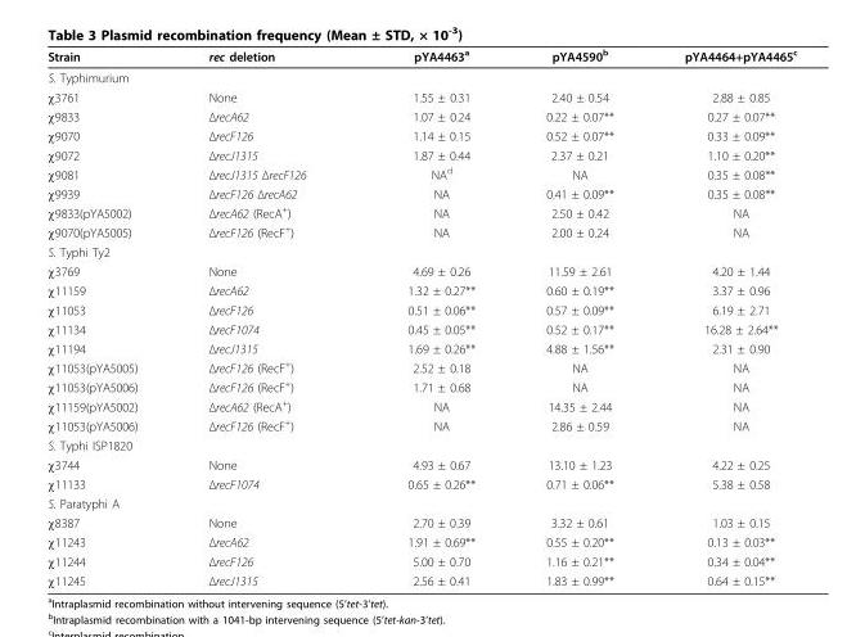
<table><thead><tr><td>Strain</td><td>rec deletion</td><td>pYA4463<sup>a</sup></td><td>pYA4590<sup>b</sup></td><td>pYA4464+pYA4465<sup>c</sup></td></tr></thead><tbody><tr><td colspan="5">S. Typhimurium</td></tr><tr><td>χ3761</td><td>None</td><td>1.55 ± 0.31</td><td>2.40 ± 0.54</td><td>2.88 ± 0.85</td></tr><tr><td>χ9833</td><td>ΔrecA62</td><td>1.07 ± 0.24</td><td>0.22 ± 0.07**</td><td>0.27 ± 0.07**</td></tr><tr><td>χ9070</td><td>ΔrecF126</td><td>1.14 ± 0.15</td><td>0.52 ± 0.07**</td><td>0.33 ± 0.09**</td></tr><tr><td>χ9072</td><td>ΔrecJ1315</td><td>1.87 ± 0.44</td><td>2.37 ± 0.21</td><td>1.10 ± 0.20**</td></tr><tr><td>χ9081</td><td>ΔrecJ1315 ΔrecF126</td><td>NA<sup>d</sup></td><td>NA</td><td>0.35 ± 0.08**</td></tr><tr><td>χ9939</td><td>ΔrecF126 ΔrecA62</td><td>NA</td><td>0.41 ± 0.09**</td><td>0.35 ± 0.08**</td></tr><tr><td>χ9833(pYA5002)</td><td>ΔrecA62 (RecA<sup>+</sup>)</td><td>NA</td><td>2.50 ± 0.42</td><td>NA</td></tr><tr><td>χ9070(pYA5005)</td><td>ΔrecF126 (RecF<sup>+</sup>)</td><td>NA</td><td>2.00 ± 0.24</td><td>NA</td></tr><tr><td colspan="5">S. Typhi Ty2</td></tr><tr><td>χ3769</td><td>None</td><td>4.69 ± 0.26</td><td>11.59 ± 2.61</td><td>4.20 ± 1.44</td></tr><tr><td>χ11159</td><td>ΔrecA62</td><td>1.32 ± 0.27**</td><td>0.60 ± 0.19**</td><td>3.37 ± 0.96</td></tr><tr><td>χ11053</td><td>ΔrecF126</td><td>0.51 ± 0.06**</td><td>0.57 ± 0.09**</td><td>6.19 ± 2.71</td></tr><tr><td>χ11134</td><td>ΔrecF1074</td><td>0.45 ± 0.05**</td><td>0.52 ± 0.17**</td><td>16.28 ± 2.64**</td></tr><tr><td>χ11194</td><td>ΔrecJ1315</td><td>1.69 ± 0.26**</td><td>4.88 ± 1.56**</td><td>2.31 ± 0.90</td></tr><tr><td>χ11053(pYA5005)</td><td>ΔrecF126 (RecF<sup>+</sup>)</td><td>2.52 ± 0.18</td><td>NA</td><td>NA</td></tr><tr><td>χ11053(pYA5006)</td><td>ΔrecF126 (RecF<sup>+</sup>)</td><td>1.71 ± 0.68</td><td>NA</td><td>NA</td></tr><tr><td>χ11159(pYA5002)</td><td>ΔrecA62 (RecA<sup>+</sup>)</td><td>NA</td><td>14.35 ± 2.44</td><td>NA</td></tr><tr><td>χ11053(pYA5006)</td><td>ΔrecF126 (RecF<sup>+</sup>)</td><td>NA</td><td>2.86 ± 0.59</td><td>NA</td></tr><tr><td colspan="5">S. Typhi ISP1820</td></tr><tr><td>χ3744</td><td>None</td><td>4.93 ± 0.67</td><td>13.10 ± 1.23</td><td>4.22 ± 0.25</td></tr><tr><td>χ11133</td><td>ΔrecF1074</td><td>0.65 ± 0.26**</td><td>0.71 ± 0.06**</td><td>5.38 ± 0.58</td></tr><tr><td colspan="5">S. Paratyphi A</td></tr><tr><td>χ8387</td><td>None</td><td>2.70 ± 0.39</td><td>3.32 ± 0.61</td><td>1.03 ± 0.15</td></tr><tr><td>χ11243</td><td>ΔrecA62</td><td>1.91 ± 0.69**</td><td>0.55 ± 0.20**</td><td>0.13 ± 0.03**</td></tr><tr><td>χ11244</td><td>ΔrecF126</td><td>5.00 ± 0.70</td><td>1.16 ± 0.21**</td><td>0.34 ± 0.04**</td></tr><tr><td>χ11245</td><td>ΔrecJ1315</td><td>2.56 ± 0.41</td><td>1.83 ± 0.99**</td><td>0.64 ± 0.15**</td></tr></tbody></table>